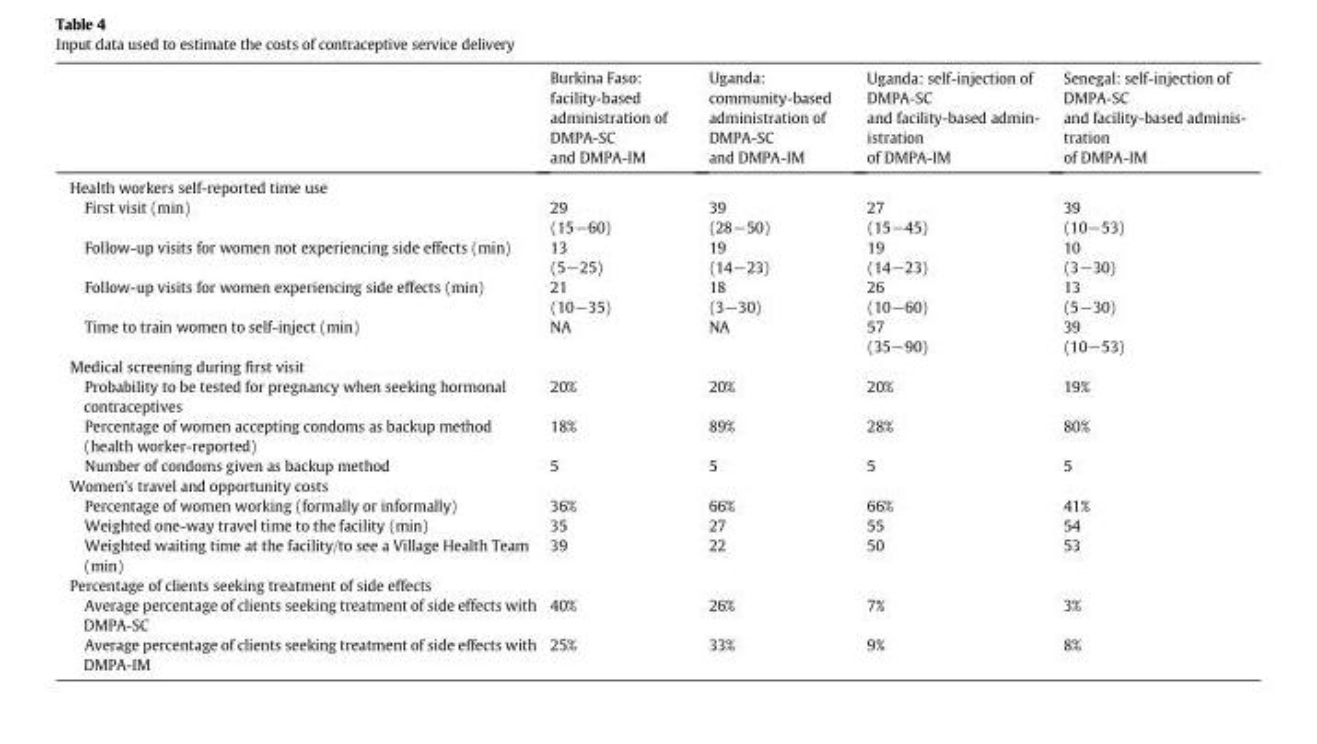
<table><thead><tr><td></td><td>Burkina Faso: facility-based administration of DMPA-SC and DMPA-IM</td><td>Uganda: community-based administration of DMPA-SC and DMPA-IM</td><td>Uganda: self-injection of DMPA-SC and facility-based admin- istration of DMPA-IM</td><td>Senegal: self-injection of DMPA-SC and facility-based adminis- tration of DMPA-IM</td></tr></thead><tbody><tr><td colspan="5">Health workers self-reported time use</td></tr><tr><td>First visit (min)</td><td>29 (15−60)</td><td>39 (28−50)</td><td>27 (15−45)</td><td>39 (10−53)</td></tr><tr><td>Follow-up visits for women not experiencing side effects (min)</td><td>13 (5−25)</td><td>19 (14−23)</td><td>19 (14−23)</td><td>10 (3−30)</td></tr><tr><td>Follow-up visits for women experiencing side effects (min)</td><td>21 (10−35)</td><td>18 (3−30)</td><td>26 (10−60)</td><td>13 (5−30)</td></tr><tr><td>Time to train women to self-inject (min)</td><td>NA</td><td>NA</td><td>57 (35−90)</td><td>39 (10−53)</td></tr><tr><td colspan="5">Medical screening during first visit</td></tr><tr><td>Probability to be tested for pregnancy when seeking hormonal contraceptives</td><td>20%</td><td>20%</td><td>20%</td><td>19%</td></tr><tr><td>Percentage of women accepting condoms as backup method (health worker-reported)</td><td>18%</td><td>89%</td><td>28%</td><td>80%</td></tr><tr><td>Number of condoms given as backup method</td><td>5</td><td>5</td><td>5</td><td>5</td></tr><tr><td colspan="5">Women’s travel and opportunity costs</td></tr><tr><td>Percentage of women working (formally or informally)</td><td>36%</td><td>66%</td><td>66%</td><td>41%</td></tr><tr><td>Weighted one-way travel time to the facility (min)</td><td>35</td><td>27</td><td>55</td><td>54</td></tr><tr><td>Weighted waiting time at the facility/to see a Village Health Team (min)</td><td>39</td><td>22</td><td>50</td><td>53</td></tr><tr><td colspan="5">Percentage of clients seeking treatment of side effects</td></tr><tr><td>Average percentage of clients seeking treatment of side effects with DMPA-SC</td><td>40%</td><td>26%</td><td>7%</td><td>3%</td></tr><tr><td>Average percentage of clients seeking treatment of side effects with DMPA-IM</td><td>25%</td><td>33%</td><td>9%</td><td>8%</td></tr></tbody></table>